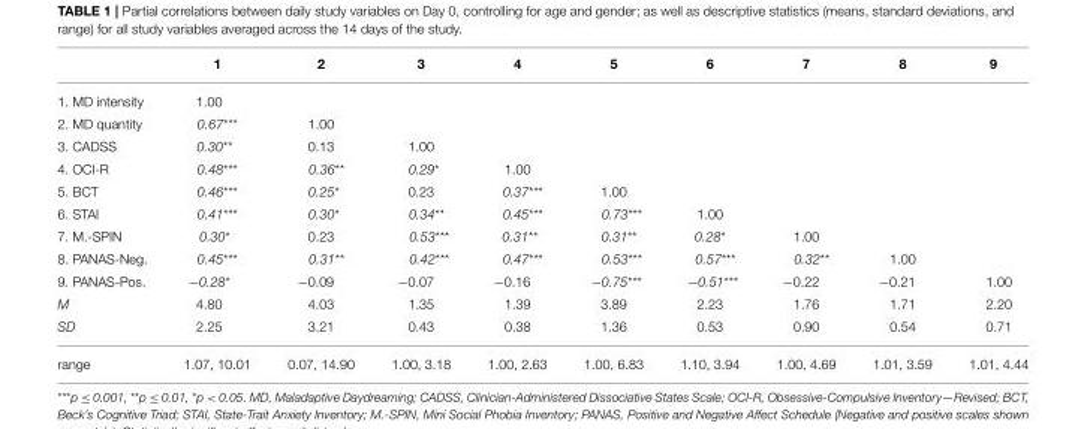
<table><thead><tr><td></td><td>1</td><td>2</td><td>3</td><td>4</td><td>5</td><td>6</td><td>7</td><td>8</td><td>9</td></tr></thead><tbody><tr><td>1. MD intensity</td><td>1.00</td><td></td><td></td><td></td><td></td><td></td><td></td><td></td><td></td></tr><tr><td>2. MD quantity</td><td>0.67***</td><td>1.00</td><td></td><td></td><td></td><td></td><td></td><td></td><td></td></tr><tr><td>3. CADSS</td><td>0.30**</td><td>0.13</td><td>1.00</td><td></td><td></td><td></td><td></td><td></td><td></td></tr><tr><td>4. OCI-R</td><td>0.48***</td><td>0.36**</td><td>0.29*</td><td>1.00</td><td></td><td></td><td></td><td></td><td></td></tr><tr><td>5. BCT</td><td>0.46***</td><td>0.25*</td><td>0.23</td><td>0.37***</td><td>1.00</td><td></td><td></td><td></td><td></td></tr><tr><td>6. STAI</td><td>0.41***</td><td>0.30*</td><td>0.34**</td><td>0.45***</td><td>0.73***</td><td>1.00</td><td></td><td></td><td></td></tr><tr><td>7. M.-SPIN</td><td>0.30*</td><td>0.23</td><td>0.53***</td><td>0.31**</td><td>0.31**</td><td>0.28*</td><td>1.00</td><td></td><td></td></tr><tr><td>8. PANAS-Neg.</td><td>0.45***</td><td>0.31**</td><td>0.42***</td><td>0.47***</td><td>0.53***</td><td>0.57***</td><td>0.32**</td><td>1.00</td><td></td></tr><tr><td>9. PANAS-Pos.</td><td>−0.28*</td><td>−0.09</td><td>−0.07</td><td>−0.16</td><td>−0.75***</td><td>−0.51***</td><td>−0.22</td><td>−0.21</td><td>1.00</td></tr><tr><td>M</td><td>4.80</td><td>4.03</td><td>1.35</td><td>1.39</td><td>3.89</td><td>2.23</td><td>1.76</td><td>1.71</td><td>2.20</td></tr><tr><td>SD</td><td>2.25</td><td>3.21</td><td>0.43</td><td>0.38</td><td>1.36</td><td>0.53</td><td>0.90</td><td>0.54</td><td>0.71</td></tr><tr><td>range</td><td>1.07, 10.01</td><td>0.07, 14.90</td><td>1.00, 3.18</td><td>1.00, 2.63</td><td>1.00, 6.83</td><td>1.10, 3.94</td><td>1.00, 4.69</td><td>1.01, 3.59</td><td>1.01, 4.44</td></tr></tbody></table>